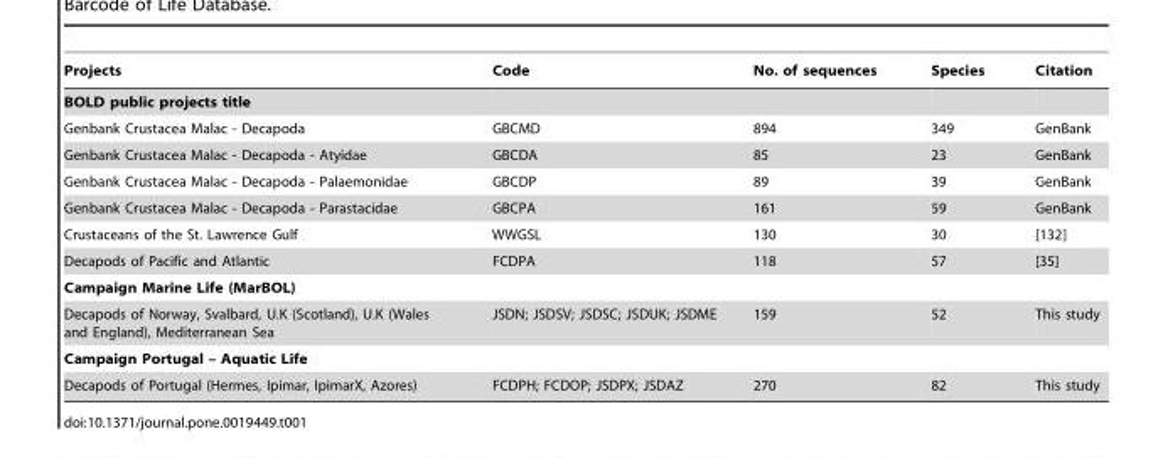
<table><thead><tr><td>Projects</td><td>Code</td><td>No. of sequences</td><td>Species</td><td>Citation</td></tr></thead><tbody><tr><td colspan="5">BOLD public projects title</td></tr><tr><td>Genbank Crustacea Malac - Decapoda</td><td>GBCMD</td><td>894</td><td>349</td><td>GenBank</td></tr><tr><td>Genbank Crustacea Malac - Decapoda - Atyidae</td><td>GBCDA</td><td>85</td><td>23</td><td>GenBank</td></tr><tr><td>Genbank Crustacea Malac - Decapoda - Palaemonidae</td><td>GBCDP</td><td>89</td><td>39</td><td>GenBank</td></tr><tr><td>Genbank Crustacea Malac - Decapoda - Parastacidae</td><td>GBCPA</td><td>161</td><td>59</td><td>GenBank</td></tr><tr><td>Crustaceans of the St. Lawrence Gulf</td><td>WWGSL</td><td>130</td><td>30</td><td>[132]</td></tr><tr><td>Decapods of Pacific and Atlantic</td><td>FCDPA</td><td>118</td><td>57</td><td>[35]</td></tr><tr><td colspan="5">Campaign Marine Life (MarBOL)</td></tr><tr><td>Decapods of Norway, Svalbard, U.K (Scotland), U.K (Wales and England), Mediterranean Sea</td><td>JSDN; JSDSV; JSDSC; JSDUK; JSDME</td><td>159</td><td>52</td><td>This study</td></tr><tr><td colspan="5">Campaign Portugal – Aquatic Life</td></tr><tr><td>Decapods of Portugal (Hermes, Ipimar, IpimarX, Azores)</td><td>FCDPH; FCDOP; JSDPX; JSDAZ</td><td>270</td><td>82</td><td>This study</td></tr></tbody></table>